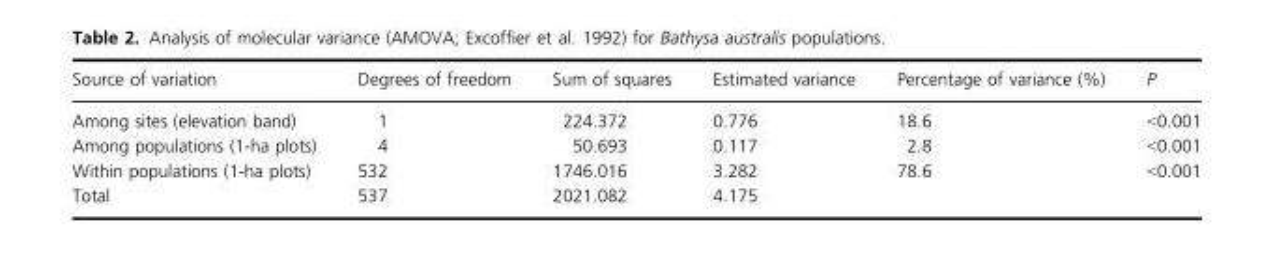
<table><thead><tr><td>Source of variation</td><td>Degrees of freedom</td><td>Sum of squares</td><td>Estimated variance</td><td>Percentage of variance (%)</td><td>P</td></tr></thead><tbody><tr><td>Among sites (elevation band)</td><td>1</td><td>224.372</td><td>0.776</td><td>18.6</td><td>&lt;0.001</td></tr><tr><td>Among populations (1-ha plots)</td><td>4</td><td>50.693</td><td>0.117</td><td>2.8</td><td>&lt;0.001</td></tr><tr><td>Within populations (1-ha plots)</td><td>532</td><td>1746.016</td><td>3.282</td><td>78.6</td><td>&lt;0.001</td></tr><tr><td>Total</td><td>537</td><td>2021.082</td><td>4.175</td><td></td><td></td></tr></tbody></table>